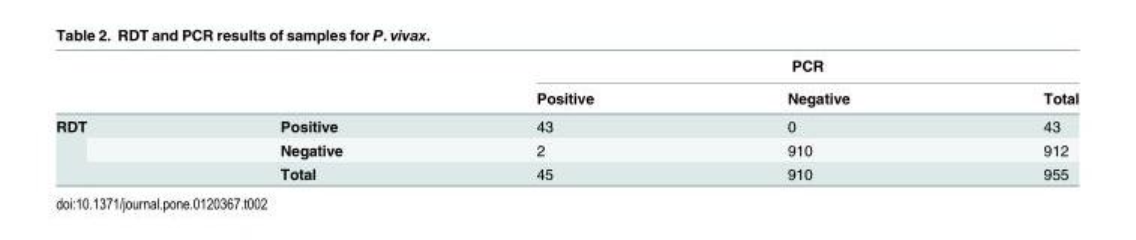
<table><thead><tr><td rowspan="2"></td><td rowspan="2"></td><td colspan="3">PCR</td></tr><tr><td>Positive</td><td>Negative</td><td>Total</td></tr></thead><tbody><tr><td rowspan="3">RDT</td><td>Positive</td><td>43</td><td>0</td><td>43</td></tr><tr><td>Negative</td><td>2</td><td>910</td><td>912</td></tr><tr><td>Total</td><td>45</td><td>910</td><td>955</td></tr></tbody></table>